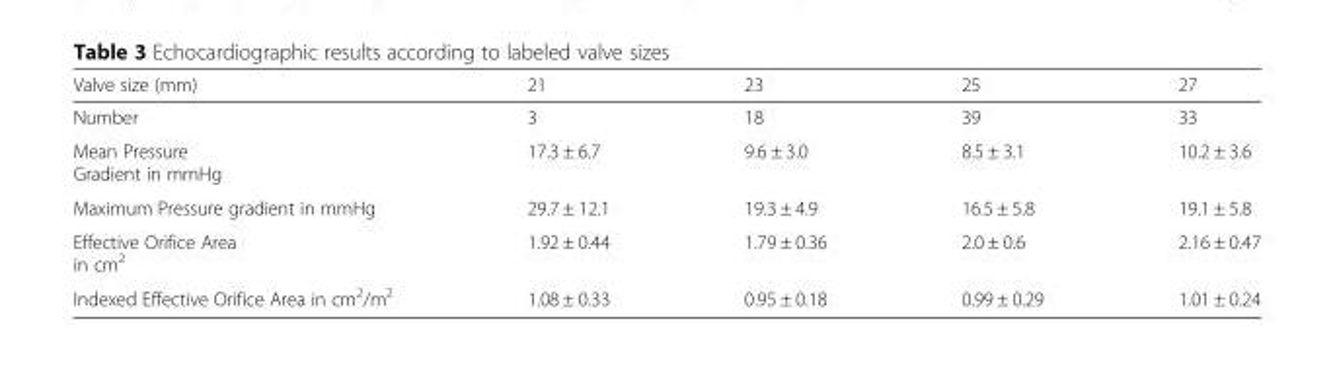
<table><thead><tr><td>Valve size (mm)</td><td>21</td><td>23</td><td>25</td><td>27</td></tr></thead><tbody><tr><td>Number</td><td>3</td><td>18</td><td>39</td><td>33</td></tr><tr><td>Mean Pressure Gradient in mmHg</td><td>17.3 ± 6.7</td><td>9.6 ± 3.0</td><td>8.5 ± 3.1</td><td>10.2 ± 3.6</td></tr><tr><td>Maximum Pressure gradient in mmHg</td><td>29.7 ± 12.1</td><td>19.3 ± 4.9</td><td>16.5 ± 5.8</td><td>19.1 ± 5.8</td></tr><tr><td>Effective Orifice Area in cm<sup>2</sup></td><td>1.92 ± 0.44</td><td>1.79 ± 0.36</td><td>2.0 ± 0.6</td><td>2.16 ± 0.47</td></tr><tr><td>Indexed Effective Orifice Area in cm<sup>2</sup>/m<sup>2</sup></td><td>1.08 ± 0.33</td><td>0.95 ± 0.18</td><td>0.99 ± 0.29</td><td>1.01 ± 0.24</td></tr></tbody></table>